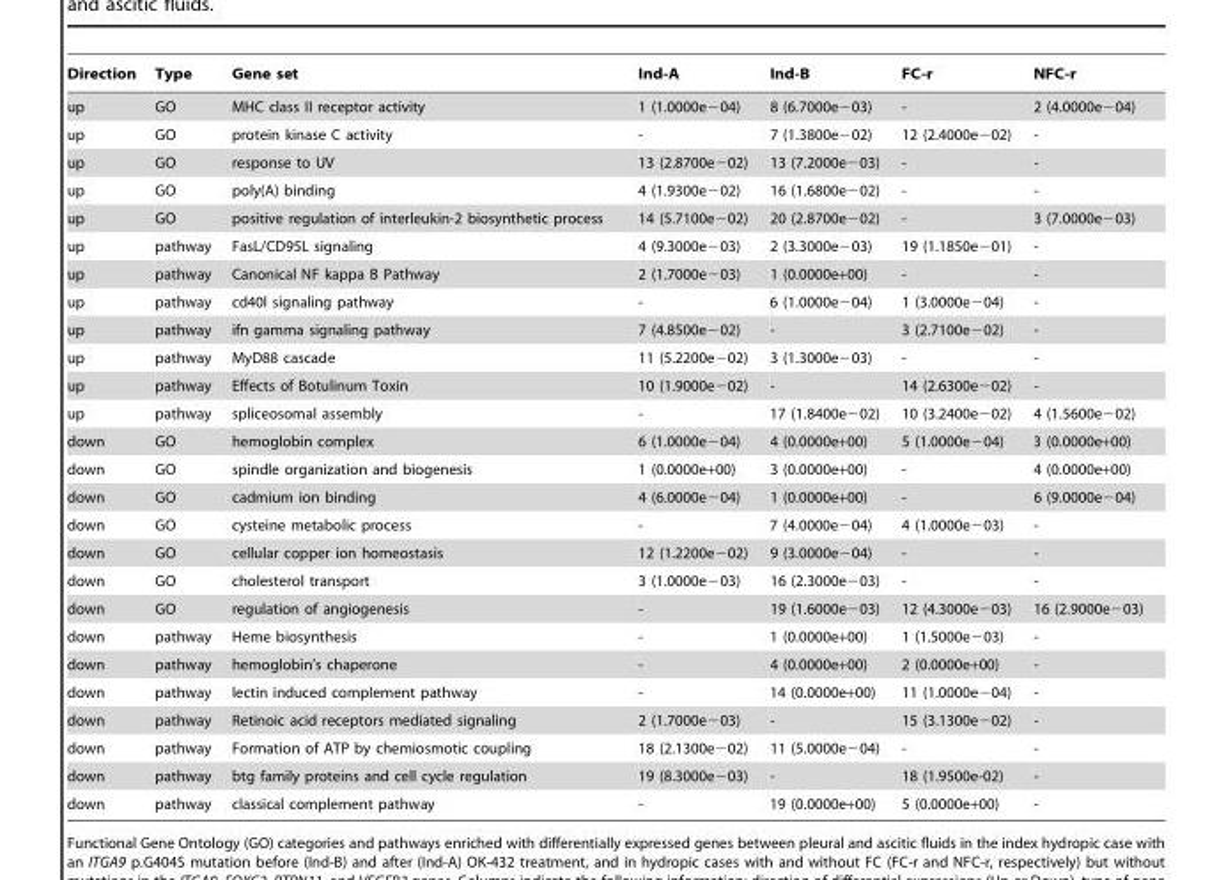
<table><thead><tr><td>Direction</td><td>Type</td><td>Gene set</td><td>Ind-A</td><td>Ind-B</td><td>FC-r</td><td>NFC-r</td></tr></thead><tbody><tr><td>up</td><td>GO</td><td>MHC class II receptor activity</td><td>1 (1.0000e−04)</td><td>8 (6.7000e−03)</td><td>-</td><td>2 (4.0000e−04)</td></tr><tr><td>up</td><td>GO</td><td>protein kinase C activity</td><td>-</td><td>7 (1.3800e−02)</td><td>12 (2.4000e−02)</td><td>-</td></tr><tr><td>up</td><td>GO</td><td>response to UV</td><td>13 (2.8700e−02)</td><td>13 (7.2000e−03)</td><td>-</td><td>-</td></tr><tr><td>up</td><td>GO</td><td>poly(A) binding</td><td>4 (1.9300e−02)</td><td>16 (1.6800e−02)</td><td>-</td><td>-</td></tr><tr><td>up</td><td>GO</td><td>positive regulation of interleukin-2 biosynthetic process</td><td>14 (5.7100e−02)</td><td>20 (2.8700e−02)</td><td>-</td><td>3 (7.0000e−03)</td></tr><tr><td>up</td><td>pathway</td><td>FasL/CD95L signaling</td><td>4 (9.3000e−03)</td><td>2 (3.3000e−03)</td><td>19 (1.1850e−01)</td><td>-</td></tr><tr><td>up</td><td>pathway</td><td>Canonical NF kappa B Pathway</td><td>2 (1.7000e−03)</td><td>1 (0.0000e+00)</td><td>-</td><td>-</td></tr><tr><td>up</td><td>pathway</td><td>cd40l signaling pathway</td><td>-</td><td>6 (1.0000e−04)</td><td>1 (3.0000e−04)</td><td>-</td></tr><tr><td>up</td><td>pathway</td><td>ifn gamma signaling pathway</td><td>7 (4.8500e−02)</td><td>-</td><td>3 (2.7100e−02)</td><td>-</td></tr><tr><td>up</td><td>pathway</td><td>MyD88 cascade</td><td>11 (5.2200e−02)</td><td>3 (1.3000e−03)</td><td>-</td><td>-</td></tr><tr><td>up</td><td>pathway</td><td>Effects of Botulinum Toxin</td><td>10 (1.9000e−02)</td><td>-</td><td>14 (2.6300e−02)</td><td>-</td></tr><tr><td>up</td><td>pathway</td><td>spliceosomal assembly</td><td>-</td><td>17 (1.8400e−02)</td><td>10 (3.2400e−02)</td><td>4 (1.5600e−02)</td></tr><tr><td>down</td><td>GO</td><td>hemoglobin complex</td><td>6 (1.0000e−04)</td><td>4 (0.0000e+00)</td><td>5 (1.0000e−04)</td><td>3 (0.0000e+00)</td></tr><tr><td>down</td><td>GO</td><td>spindle organization and biogenesis</td><td>1 (0.0000e+00)</td><td>3 (0.0000e+00)</td><td>-</td><td>4 (0.0000e+00)</td></tr><tr><td>down</td><td>GO</td><td>cadmium ion binding</td><td>4 (6.0000e−04)</td><td>1 (0.0000e+00)</td><td>-</td><td>6 (9.0000e−04)</td></tr><tr><td>down</td><td>GO</td><td>cysteine metabolic process</td><td>-</td><td>7 (4.0000e−04)</td><td>4 (1.0000e−03)</td><td>-</td></tr><tr><td>down</td><td>GO</td><td>cellular copper ion homeostasis</td><td>12 (1.2200e−02)</td><td>9 (3.0000e−04)</td><td>-</td><td>-</td></tr><tr><td>down</td><td>GO</td><td>cholesterol transport</td><td>3 (1.0000e−03)</td><td>16 (2.3000e−03)</td><td>-</td><td>-</td></tr><tr><td>down</td><td>GO</td><td>regulation of angiogenesis</td><td>-</td><td>19 (1.6000e−03)</td><td>12 (4.3000e−03)</td><td>16 (2.9000e−03)</td></tr><tr><td>down</td><td>pathway</td><td>Heme biosynthesis</td><td>-</td><td>1 (0.0000e+00)</td><td>1 (1.5000e−03)</td><td>-</td></tr><tr><td>down</td><td>pathway</td><td>hemoglobin’s chaperone</td><td>-</td><td>4 (0.0000e+00)</td><td>2 (0.0000e+00)</td><td>-</td></tr><tr><td>down</td><td>pathway</td><td>lectin induced complement pathway</td><td>-</td><td>14 (0.0000e+00)</td><td>11 (1.0000e−04)</td><td>-</td></tr><tr><td>down</td><td>pathway</td><td>Retinoic acid receptors mediated signaling</td><td>2 (1.7000e−03)</td><td>-</td><td>15 (3.1300e−02)</td><td>-</td></tr><tr><td>down</td><td>pathway</td><td>Formation of ATP by chemiosmotic coupling</td><td>18 (2.1300e−02)</td><td>11 (5.0000e−04)</td><td>-</td><td>-</td></tr><tr><td>down</td><td>pathway</td><td>btg family proteins and cell cycle regulation</td><td>19 (8.3000e−03)</td><td>-</td><td>18 (1.9500e-02)</td><td>-</td></tr><tr><td>down</td><td>pathway</td><td>classical complement pathway</td><td>-</td><td>19 (0.0000e+00)</td><td>5 (0.0000e+00)</td><td>-</td></tr></tbody></table>